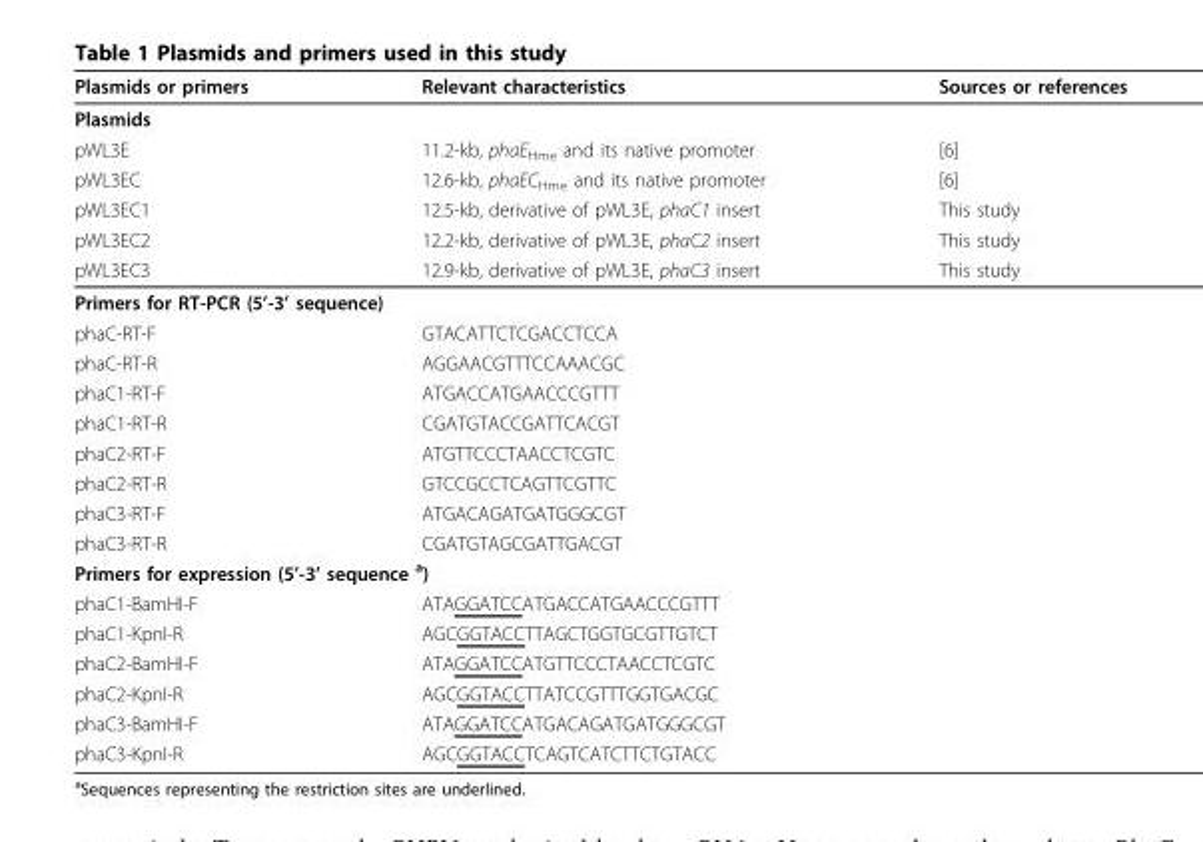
<table><thead><tr><td>Plasmids or primers</td><td>Relevant characteristics</td><td>Sources or references</td></tr></thead><tbody><tr><td colspan="3">Plasmids</td></tr><tr><td>pWL3E</td><td>11.2-kb, phaE<sub>Hme</sub> and its native promoter</td><td>[6]</td></tr><tr><td>pWL3EC</td><td>12.6-kb, phaEC<sub>Hme</sub> and its native promoter</td><td>[6]</td></tr><tr><td>pWL3EC1</td><td>12.5-kb, derivative of pWL3E, phaC1 insert</td><td>This study</td></tr><tr><td>pWL3EC2</td><td>12.2-kb, derivative of pWL3E, phaC2 insert</td><td>This study</td></tr><tr><td>pWL3EC3</td><td>12.9-kb, derivative of pWL3E, phaC3 insert</td><td>This study</td></tr><tr><td colspan="3">Primers for RT-PCR (5’-3’ sequence)</td></tr><tr><td>phaC-RT-F</td><td>GTACATTCTCGACCTCCA</td><td></td></tr><tr><td>phaC-RT-R</td><td>AGGAACGTTTCCAAACGC</td><td></td></tr><tr><td>phaC1-RT-F</td><td>ATGACCATGAACCCGTTT</td><td></td></tr><tr><td>phaC1-RT-R</td><td>CGATGTACCGATTCACGT</td><td></td></tr><tr><td>phaC2-RT-F</td><td>ATGTTCCCTAACCTCGTC</td><td></td></tr><tr><td>phaC2-RT-R</td><td>GTCCGCCTCAGTTCGTTC</td><td></td></tr><tr><td>phaC3-RT-F</td><td>ATGACAGATGATGGGCGT</td><td></td></tr><tr><td>phaC3-RT-R</td><td>CGATGTAGCGATTGACGT</td><td></td></tr><tr><td colspan="3">Primers for expression (5’-3’ sequence <sup>a</sup>)</td></tr><tr><td>phaC1-BamHI-F</td><td>ATAGGATCCATGACCATGAACCCGTTT</td><td></td></tr><tr><td>phaC1-KpnI-R</td><td>AGCGGTACCTTAGCTGGTGCGTTGTCT</td><td></td></tr><tr><td>phaC2-BamHI-F</td><td>ATAGGATCCATGTTCCCTAACCTCGTC</td><td></td></tr><tr><td>phaC2-KpnI-R</td><td>AGCGGTACCTTATCCGTTTGGTGACGC</td><td></td></tr><tr><td>phaC3-BamHI-F</td><td>ATAGGATCCATGACAGATGATGGGCGT</td><td></td></tr><tr><td>phaC3-KpnI-R</td><td>AGCGGTACCTCAGTCATCTTCTGTACC</td><td></td></tr></tbody></table>